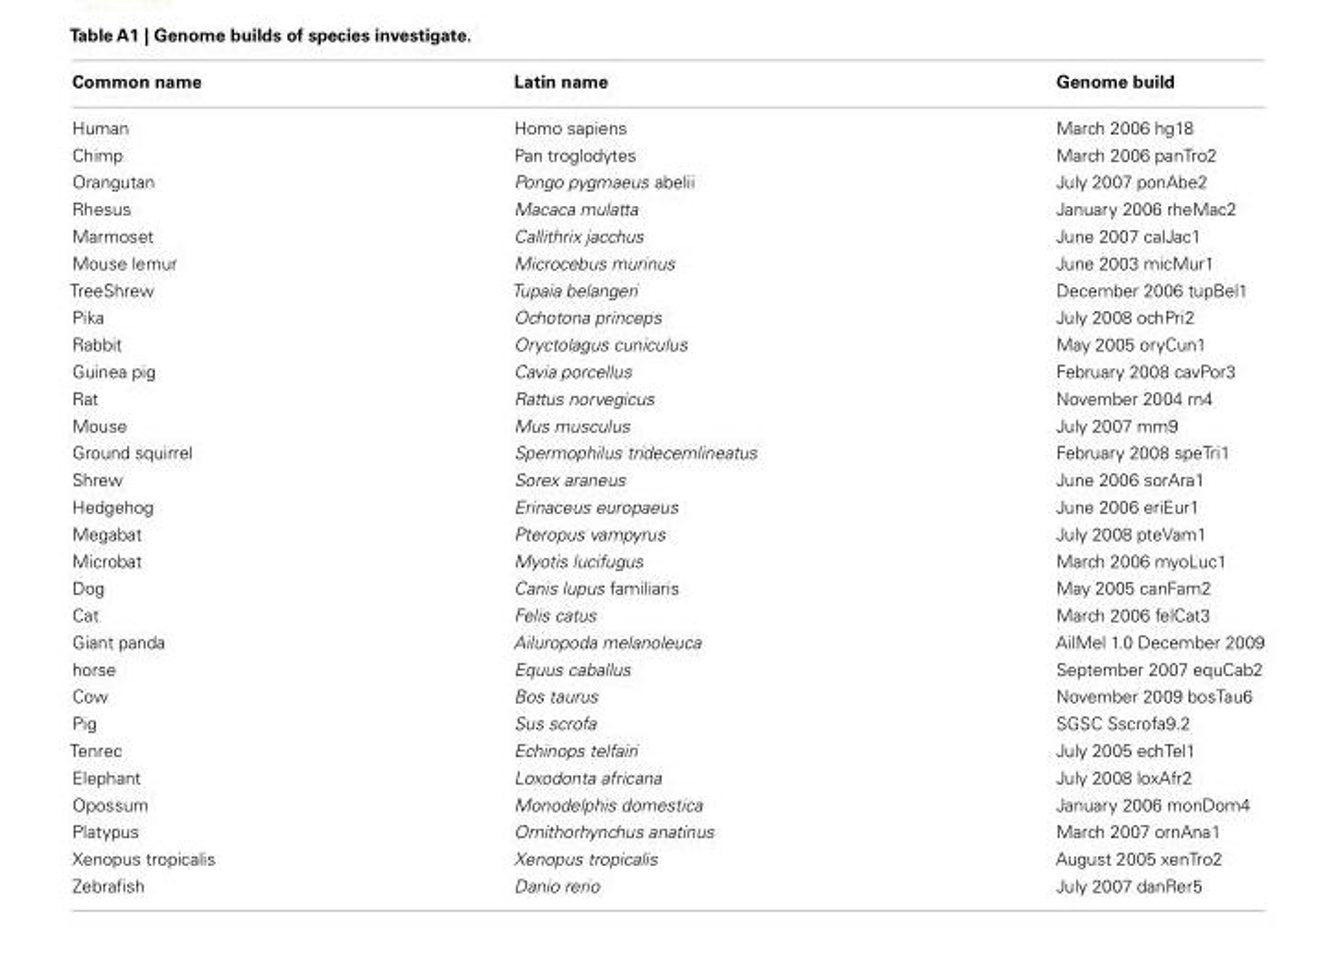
<table><thead><tr><td>Common name</td><td>Latin name</td><td>Genome build</td></tr></thead><tbody><tr><td>Human</td><td>Homo sapiens</td><td>March 2006 hg18</td></tr><tr><td>Chimp</td><td>Pan troglodytes</td><td>March 2006 panTro2</td></tr><tr><td>Orangutan</td><td>Pongo pygmaeus abelii</td><td>July 2007 ponAbe2</td></tr><tr><td>Rhesus</td><td>Macaca mulatta</td><td>January 2006 rheMac2</td></tr><tr><td>Marmoset</td><td>Callithrix jacchus</td><td>June 2007 calJac1</td></tr><tr><td>Mouse lemur</td><td>Microcebus murinus</td><td>June 2003 micMur1</td></tr><tr><td>TreeShrew</td><td>Tupaia belangeri</td><td>December 2006 tupBel1</td></tr><tr><td>Pika</td><td>Ochotona princeps</td><td>July 2008 ochPri2</td></tr><tr><td>Rabbit</td><td>Oryctolagus cuniculus</td><td>May 2005 oryCun1</td></tr><tr><td>Guinea pig</td><td>Cavia porcellus</td><td>February 2008 cavPor3</td></tr><tr><td>Rat</td><td>Rattus norvegicus</td><td>November 2004 rn4</td></tr><tr><td>Mouse</td><td>Mus musculus</td><td>July 2007 mm9</td></tr><tr><td>Ground squirrel</td><td>Spermophilus tridecemlineatus</td><td>February 2008 speTri1</td></tr><tr><td>Shrew</td><td>Sorex araneus</td><td>June 2006 sorAra1</td></tr><tr><td>Hedgehog</td><td>Erinaceus europaeus</td><td>June 2006 eriEur1</td></tr><tr><td>Megabat</td><td>Pteropus vampyrus</td><td>July 2008 pteVam1</td></tr><tr><td>Microbat</td><td>Myotis lucifugus</td><td>March 2006 myoLuc1</td></tr><tr><td>Dog</td><td>Canis lupus familiaris</td><td>May 2005 canFam2</td></tr><tr><td>Cat</td><td>Felis catus</td><td>March 2006 felCat3</td></tr><tr><td>Giant panda</td><td>Ailuropoda melanoleuca</td><td>AilMel 1.0 December 2009</td></tr><tr><td>horse</td><td>Equus caballus</td><td>September 2007 equCab2</td></tr><tr><td>Cow</td><td>Bos taurus</td><td>November 2009 bosTau6</td></tr><tr><td>Pig</td><td>Sus scrofa</td><td>SGSC Sscrofa9.2</td></tr><tr><td>Tenrec</td><td>Echinops telfairi</td><td>July 2005 echTel1</td></tr><tr><td>Elephant</td><td>Loxodonta africana</td><td>July 2008 loxAfr2</td></tr><tr><td>Opossum</td><td>Monodelphis domestica</td><td>January 2006 monDom4</td></tr><tr><td>Platypus</td><td>Ornithorhynchus anatinus</td><td>March 2007 ornAna1</td></tr><tr><td>Xenopus tropicalis</td><td>Xenopus tropicalis</td><td>August 2005 xenTro2</td></tr><tr><td>Zebrafish</td><td>Danio rerio</td><td>July 2007 danRer5</td></tr></tbody></table>